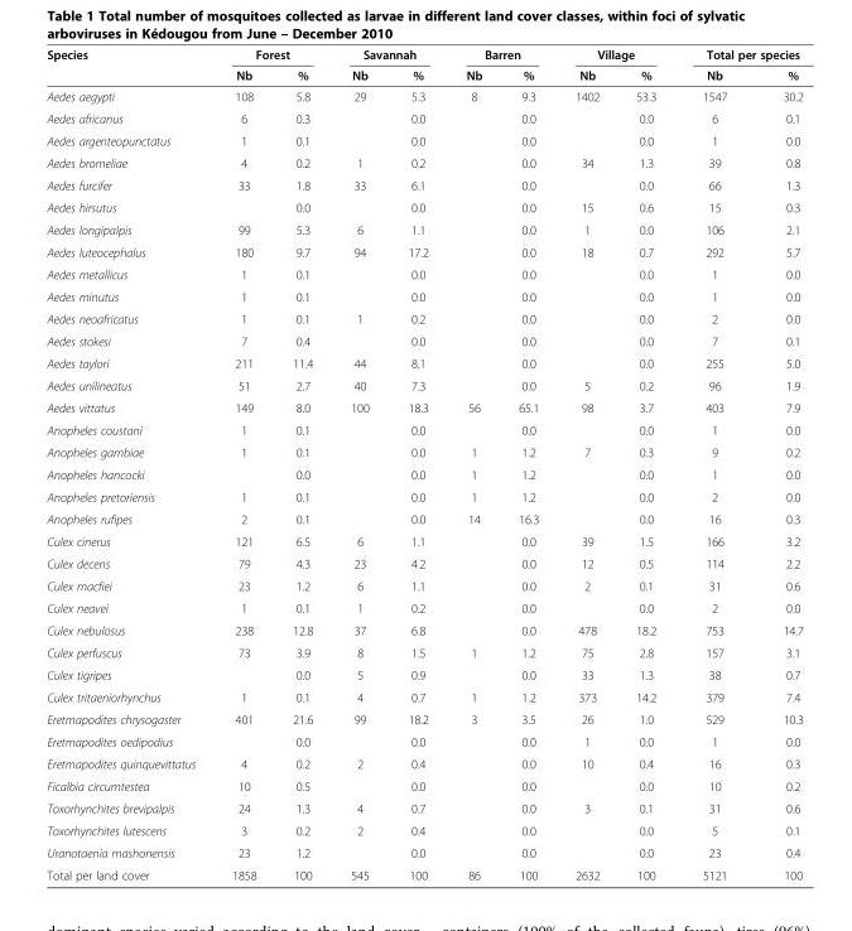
<table><thead><tr><td rowspan="2">Species</td><td colspan="2">Forest</td><td colspan="2">Savannah</td><td colspan="2">Barren</td><td colspan="2">Village</td><td colspan="2">Total per species</td></tr><tr><td>Nb</td><td>%</td><td>Nb</td><td>%</td><td>Nb</td><td>%</td><td>Nb</td><td>%</td><td>Nb</td><td>%</td></tr></thead><tbody><tr><td>Aedes aegypti</td><td>108</td><td>5.8</td><td>29</td><td>5.3</td><td>8</td><td>9.3</td><td>1402</td><td>53.3</td><td>1547</td><td>30.2</td></tr><tr><td>Aedes africanus</td><td>6</td><td>0.3</td><td></td><td>0.0</td><td></td><td>0.0</td><td></td><td>0.0</td><td>6</td><td>0.1</td></tr><tr><td>Aedes argenteopunctatus</td><td>1</td><td>0.1</td><td></td><td>0.0</td><td></td><td>0.0</td><td></td><td>0.0</td><td>1</td><td>0.0</td></tr><tr><td>Aedes bromeliae</td><td>4</td><td>0.2</td><td>1</td><td>0.2</td><td></td><td>0.0</td><td>34</td><td>1.3</td><td>39</td><td>0.8</td></tr><tr><td>Aedes furcifer</td><td>33</td><td>1.8</td><td>33</td><td>6.1</td><td></td><td>0.0</td><td></td><td>0.0</td><td>66</td><td>1.3</td></tr><tr><td>Aedes hirsutus</td><td></td><td>0.0</td><td></td><td>0.0</td><td></td><td>0.0</td><td>15</td><td>0.6</td><td>15</td><td>0.3</td></tr><tr><td>Aedes longipalpis</td><td>99</td><td>5.3</td><td>6</td><td>1.1</td><td></td><td>0.0</td><td>1</td><td>0.0</td><td>106</td><td>2.1</td></tr><tr><td>Aedes luteocephalus</td><td>180</td><td>9.7</td><td>94</td><td>17.2</td><td></td><td>0.0</td><td>18</td><td>0.7</td><td>292</td><td>5.7</td></tr><tr><td>Aedes metallicus</td><td>1</td><td>0.1</td><td></td><td>0.0</td><td></td><td>0.0</td><td></td><td>0.0</td><td>1</td><td>0.0</td></tr><tr><td>Aedes minutus</td><td>1</td><td>0.1</td><td></td><td>0.0</td><td></td><td>0.0</td><td></td><td>0.0</td><td>1</td><td>0.0</td></tr><tr><td>Aedes neoafricatus</td><td>1</td><td>0.1</td><td>1</td><td>0.2</td><td></td><td>0.0</td><td></td><td>0.0</td><td>2</td><td>0.0</td></tr><tr><td>Aedes stokesi</td><td>7</td><td>0.4</td><td></td><td>0.0</td><td></td><td>0.0</td><td></td><td>0.0</td><td>7</td><td>0.1</td></tr><tr><td>Aedes taylori</td><td>211</td><td>11.4</td><td>44</td><td>8.1</td><td></td><td>0.0</td><td></td><td>0.0</td><td>255</td><td>5.0</td></tr><tr><td>Aedes unilineatus</td><td>51</td><td>2.7</td><td>40</td><td>7.3</td><td></td><td>0.0</td><td>5</td><td>0.2</td><td>96</td><td>1.9</td></tr><tr><td>Aedes vittatus</td><td>149</td><td>8.0</td><td>100</td><td>18.3</td><td>56</td><td>65.1</td><td>98</td><td>3.7</td><td>403</td><td>7.9</td></tr><tr><td>Anopheles coustani</td><td>1</td><td>0.1</td><td></td><td>0.0</td><td></td><td>0.0</td><td></td><td>0.0</td><td>1</td><td>0.0</td></tr><tr><td>Anopheles gambiae</td><td>1</td><td>0.1</td><td></td><td>0.0</td><td>1</td><td>1.2</td><td>7</td><td>0.3</td><td>9</td><td>0.2</td></tr><tr><td>Anopheles hancocki</td><td></td><td>0.0</td><td></td><td>0.0</td><td>1</td><td>1.2</td><td></td><td>0.0</td><td>1</td><td>0.0</td></tr><tr><td>Anopheles pretoriensis</td><td>1</td><td>0.1</td><td></td><td>0.0</td><td>1</td><td>1.2</td><td></td><td>0.0</td><td>2</td><td>0.0</td></tr><tr><td>Anopheles rufipes</td><td>2</td><td>0.1</td><td></td><td>0.0</td><td>14</td><td>16.3</td><td></td><td>0.0</td><td>16</td><td>0.3</td></tr><tr><td>Culex cinerus</td><td>121</td><td>6.5</td><td>6</td><td>1.1</td><td></td><td>0.0</td><td>39</td><td>1.5</td><td>166</td><td>3.2</td></tr><tr><td>Culex decens</td><td>79</td><td>4.3</td><td>23</td><td>4.2</td><td></td><td>0.0</td><td>12</td><td>0.5</td><td>114</td><td>2.2</td></tr><tr><td>Culex macfiei</td><td>23</td><td>1.2</td><td>6</td><td>1.1</td><td></td><td>0.0</td><td>2</td><td>0.1</td><td>31</td><td>0.6</td></tr><tr><td>Culex neavei</td><td>1</td><td>0.1</td><td>1</td><td>0.2</td><td></td><td>0.0</td><td></td><td>0.0</td><td>2</td><td>0.0</td></tr><tr><td>Culex nebulosus</td><td>238</td><td>12.8</td><td>37</td><td>6.8</td><td></td><td>0.0</td><td>478</td><td>18.2</td><td>753</td><td>14.7</td></tr><tr><td>Culex perfuscus</td><td>73</td><td>3.9</td><td>8</td><td>1.5</td><td>1</td><td>1.2</td><td>75</td><td>2.8</td><td>157</td><td>3.1</td></tr><tr><td>Culex tigripes</td><td></td><td>0.0</td><td>5</td><td>0.9</td><td></td><td>0.0</td><td>33</td><td>1.3</td><td>38</td><td>0.7</td></tr><tr><td>Culex tritaeniorhynchus</td><td>1</td><td>0.1</td><td>4</td><td>0.7</td><td>1</td><td>1.2</td><td>373</td><td>14.2</td><td>379</td><td>7.4</td></tr><tr><td>Eretmapodites chrysogaster</td><td>401</td><td>21.6</td><td>99</td><td>18.2</td><td>3</td><td>3.5</td><td>26</td><td>1.0</td><td>529</td><td>10.3</td></tr><tr><td>Eretmapodites oedipodius</td><td></td><td>0.0</td><td></td><td>0.0</td><td></td><td>0.0</td><td>1</td><td>0.0</td><td>1</td><td>0.0</td></tr><tr><td>Eretmapodites quinquevittatus</td><td>4</td><td>0.2</td><td>2</td><td>0.4</td><td></td><td>0.0</td><td>10</td><td>0.4</td><td>16</td><td>0.3</td></tr><tr><td>Ficalbia circumtestea</td><td>10</td><td>0.5</td><td></td><td>0.0</td><td></td><td>0.0</td><td></td><td>0.0</td><td>10</td><td>0.2</td></tr><tr><td>Toxorhynchites brevipalpis</td><td>24</td><td>1.3</td><td>4</td><td>0.7</td><td></td><td>0.0</td><td>3</td><td>0.1</td><td>31</td><td>0.6</td></tr><tr><td>Toxorhynchites lutescens</td><td>3</td><td>0.2</td><td>2</td><td>0.4</td><td></td><td>0.0</td><td></td><td>0.0</td><td>5</td><td>0.1</td></tr><tr><td>Uranotaenia mashonensis</td><td>23</td><td>1.2</td><td></td><td>0.0</td><td></td><td>0.0</td><td></td><td>0.0</td><td>23</td><td>0.4</td></tr><tr><td>Total per land cover</td><td>1858</td><td>100</td><td>545</td><td>100</td><td>86</td><td>100</td><td>2632</td><td>100</td><td>5121</td><td>100</td></tr></tbody></table>